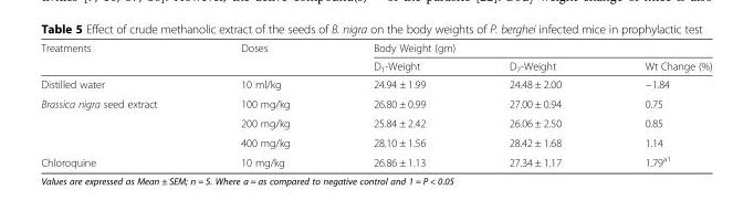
<table><thead><tr><td rowspan="2">Treatments</td><td rowspan="2">Doses</td><td colspan="3">Body Weight (gm)</td></tr><tr><td>D<sub>1</sub>-Weight</td><td>D<sub>7</sub>-Weight</td><td>Wt Change (%)</td></tr></thead><tbody><tr><td>Distilled water</td><td>10 ml/kg</td><td>24.94 ± 1.99</td><td>24.48 ± 2.00</td><td>−1.84</td></tr><tr><td rowspan="3">Brassica nigra seed extract</td><td>100 mg/kg</td><td>26.80 ± 0.99</td><td>27.00 ± 0.94</td><td>0.75</td></tr><tr><td>200 mg/kg</td><td>25.84 ± 2.42</td><td>26.06 ± 2.50</td><td>0.85</td></tr><tr><td>400 mg/kg</td><td>28.10 ± 1.56</td><td>28.42 ± 1.68</td><td>1.14</td></tr><tr><td>Chloroquine</td><td>10 mg/kg</td><td>26.86 ± 1.13</td><td>27.34 ± 1.17</td><td>1.79<sup>a1</sup></td></tr></tbody></table>